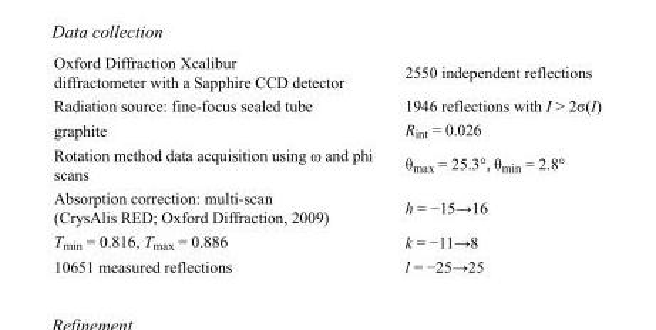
<table><tbody><tr><td>Oxford Diffraction Xcalibur diffractometer with a Sapphire CCD detector</td><td>2550 independent reflections</td></tr><tr><td>Radiation source: fine-focus sealed tube</td><td>1946 reflections with I &gt; 2σ(I)</td></tr><tr><td>graphite</td><td>R<sub>int</sub> = 0.026</td></tr><tr><td>Rotation method data acquisition using ω and phi scans</td><td>θ<sub>max</sub> = 25.3°, θ<sub>min</sub> = 2.8°</td></tr><tr><td>Absorption correction: multi-scan (CrysAlis RED; Oxford Diffraction, 2009)</td><td>h = −15→16</td></tr><tr><td>T<sub>min</sub> = 0.816, T<sub>max</sub> = 0.886</td><td>k = −11→8</td></tr><tr><td>10651 measured reflections</td><td>l = −25→25</td></tr></tbody></table>